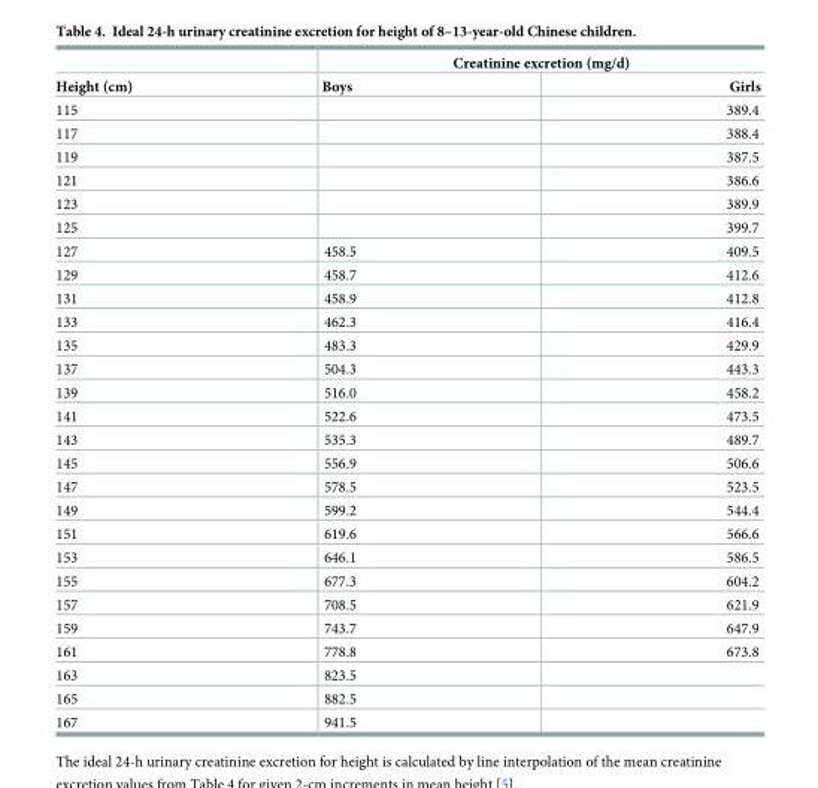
<table><thead><tr><td rowspan="2">Height (cm)</td><td colspan="2">Creatinine excretion (mg/d)</td></tr><tr><td>Boys</td><td>Girls</td></tr></thead><tbody><tr><td>115</td><td></td><td>389.4</td></tr><tr><td>117</td><td></td><td>388.4</td></tr><tr><td>119</td><td></td><td>387.5</td></tr><tr><td>121</td><td></td><td>386.6</td></tr><tr><td>123</td><td></td><td>389.9</td></tr><tr><td>125</td><td></td><td>399.7</td></tr><tr><td>127</td><td>458.5</td><td>409.5</td></tr><tr><td>129</td><td>458.7</td><td>412.6</td></tr><tr><td>131</td><td>458.9</td><td>412.8</td></tr><tr><td>133</td><td>462.3</td><td>416.4</td></tr><tr><td>135</td><td>483.3</td><td>429.9</td></tr><tr><td>137</td><td>504.3</td><td>443.3</td></tr><tr><td>139</td><td>516.0</td><td>458.2</td></tr><tr><td>141</td><td>522.6</td><td>473.5</td></tr><tr><td>143</td><td>535.3</td><td>489.7</td></tr><tr><td>145</td><td>556.9</td><td>506.6</td></tr><tr><td>147</td><td>578.5</td><td>523.5</td></tr><tr><td>149</td><td>599.2</td><td>544.4</td></tr><tr><td>151</td><td>619.6</td><td>566.6</td></tr><tr><td>153</td><td>646.1</td><td>586.5</td></tr><tr><td>155</td><td>677.3</td><td>604.2</td></tr><tr><td>157</td><td>708.5</td><td>621.9</td></tr><tr><td>159</td><td>743.7</td><td>647.9</td></tr><tr><td>161</td><td>778.8</td><td>673.8</td></tr><tr><td>163</td><td>823.5</td><td></td></tr><tr><td>165</td><td>882.5</td><td></td></tr><tr><td>167</td><td>941.5</td><td></td></tr></tbody></table>